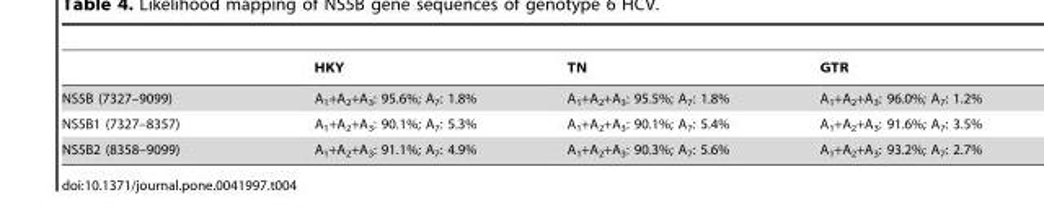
<table><thead><tr><td></td><td>HKY</td><td>TN</td><td>GTR</td></tr></thead><tbody><tr><td>NS5B (7327–9099)</td><td>A<sub>1</sub>+A<sub>2</sub>+A<sub>3</sub>: 95.6%; A<sub>7</sub>: 1.8%</td><td>A<sub>1</sub>+A<sub>2</sub>+A<sub>3</sub>: 95.5%; A<sub>7</sub>: 1.8%</td><td>A<sub>1</sub>+A<sub>2</sub>+A<sub>3</sub>: 96.0%; A<sub>7</sub>: 1.2%</td></tr><tr><td>NS5B1 (7327–8357)</td><td>A<sub>1</sub>+A<sub>2</sub>+A<sub>3</sub>: 90.1%; A<sub>7</sub>: 5.3%</td><td>A<sub>1</sub>+A<sub>2</sub>+A<sub>3</sub>: 90.1%; A<sub>7</sub>: 5.4%</td><td>A<sub>1</sub>+A<sub>2</sub>+A<sub>3</sub>: 91.6%; A<sub>7</sub>: 3.5%</td></tr><tr><td>NS5B2 (8358–9099)</td><td>A<sub>1</sub>+A<sub>2</sub>+A<sub>3</sub>: 91.1%; A<sub>7</sub>: 4.9%</td><td>A<sub>1</sub>+A<sub>2</sub>+A<sub>3</sub>: 90.3%; A<sub>7</sub>: 5.6%</td><td>A<sub>1</sub>+A<sub>2</sub>+A<sub>3</sub>: 93.2%; A<sub>7</sub>: 2.7%</td></tr></tbody></table>